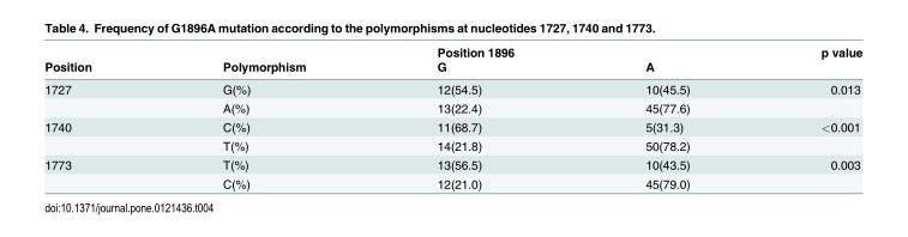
<table><thead><tr><td rowspan="2">Position</td><td rowspan="2">Polymorphism</td><td rowspan="2">Position 1896 G</td><td rowspan="2">A</td><td rowspan="2">p value</td></tr><tr></tr></thead><tbody><tr><td rowspan="2">1727</td><td>G(%)</td><td>12(54.5)</td><td>10(45.5)</td><td>0.013</td></tr><tr><td>A(%)</td><td>13(22.4)</td><td>45(77.6)</td><td></td></tr><tr><td rowspan="2">1740</td><td>C(%)</td><td>11(68.7)</td><td>5(31.3)</td><td>&lt;0.001</td></tr><tr><td>T(%)</td><td>14(21.8)</td><td>50(78.2)</td><td></td></tr><tr><td rowspan="2">1773</td><td>T(%)</td><td>13(56.5)</td><td>10(43.5)</td><td>0.003</td></tr><tr><td>C(%)</td><td>12(21.0)</td><td>45(79.0)</td><td></td></tr></tbody></table>